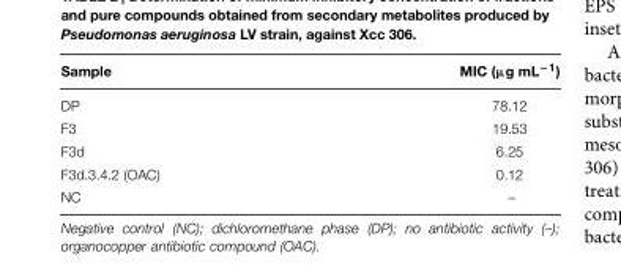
<table><thead><tr><td>Sample</td><td>MIC (µg mL<sup>−1</sup>)</td></tr></thead><tbody><tr><td>DP</td><td>78.12</td></tr><tr><td>F3</td><td>19.53</td></tr><tr><td>F3d</td><td>6.25</td></tr><tr><td>F3d.3.4.2 (OAC)</td><td>0.12</td></tr><tr><td>NC</td><td>–</td></tr></tbody></table>